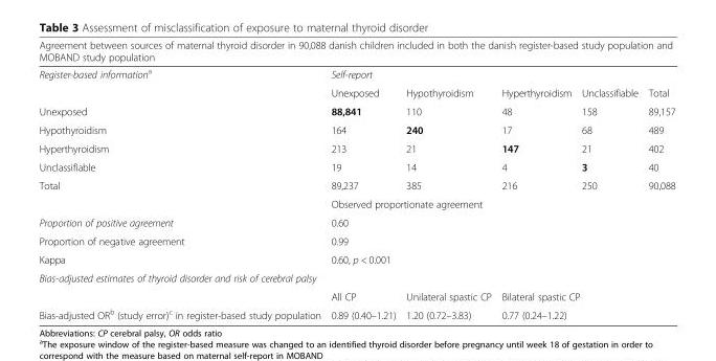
<table><thead><tr><td colspan="6">Agreement between sources of maternal thyroid disorder in 90,088 danish children included in both the danish register-based study population and MOBAND study population</td></tr><tr><td rowspan="2">Register-based information<sup>a</sup></td><td colspan="5">Self-report</td></tr><tr><td>Unexposed</td><td>Hypothyroidism</td><td>Hyperthyroidism</td><td>Unclassifiable</td><td>Total</td></tr></thead><tbody><tr><td>Unexposed</td><td>88,841</td><td>110</td><td>48</td><td>158</td><td>89,157</td></tr><tr><td>Hypothyroidism</td><td>164</td><td>240</td><td>17</td><td>68</td><td>489</td></tr><tr><td>Hyperthyroidism</td><td>213</td><td>21</td><td>147</td><td>21</td><td>402</td></tr><tr><td>Unclassifiable</td><td>19</td><td>14</td><td>4</td><td>3</td><td>40</td></tr><tr><td rowspan="2">Total</td><td>89,237</td><td>385</td><td>216</td><td>250</td><td>90,088</td></tr><tr><td colspan="5">Observed proportionate agreement</td></tr><tr><td>Proportion of positive agreement</td><td colspan="5">0.60</td></tr><tr><td>Proportion of negative agreement</td><td colspan="5">0.99</td></tr><tr><td>Kappa</td><td colspan="5">0.60, p &lt; 0.001</td></tr><tr><td colspan="6">Bias-adjusted estimates of thyroid disorder and risk of cerebral palsy</td></tr><tr><td></td><td>All CP</td><td>Unilateral spastic CP</td><td colspan="3">Bilateral spastic CP</td></tr><tr><td>Bias-adjusted OR<sup>b</sup> (study error)<sup>c</sup> in register-based study population</td><td>0.89 (0.40–1.21)</td><td>1.20 (0.72–3.83)</td><td colspan="3">0.77 (0.24–1.22)</td></tr></tbody></table>